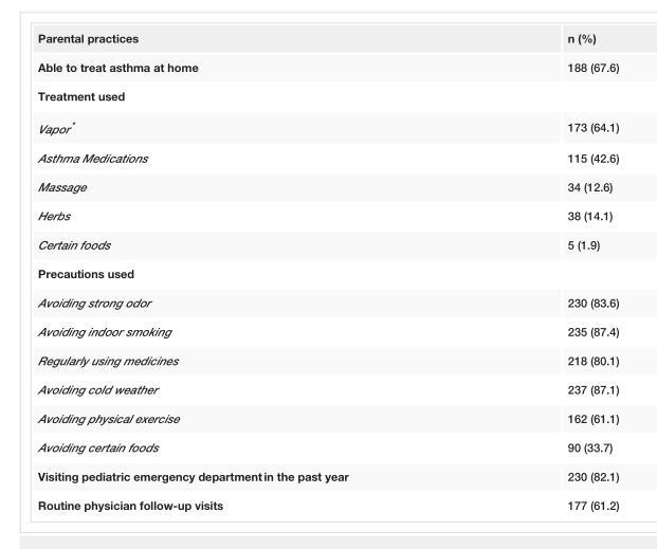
<table><tbody><tr><td>Parental practices</td><td>n (%)</td></tr><tr><td>Able to treat asthma at home</td><td>188 (67.6)</td></tr><tr><td colspan="2">Treatment used</td></tr><tr><td>Vapor*</td><td>173 (64.1)</td></tr><tr><td>Asthma Medications</td><td>115 (42.6)</td></tr><tr><td>Massage</td><td>34 (12.6)</td></tr><tr><td>Herbs</td><td>38 (14.1)</td></tr><tr><td>Certain foods</td><td>5 (1.9)</td></tr><tr><td colspan="2">Precautions used</td></tr><tr><td>Avoiding strong odor</td><td>230 (83.6)</td></tr><tr><td>Avoiding indoor smoking</td><td>235 (87.4)</td></tr><tr><td>Regularly using medicines</td><td>218 (80.1)</td></tr><tr><td>Avoiding cold weather</td><td>237 (87.1)</td></tr><tr><td>Avoiding physical exercise</td><td>162 (61.1)</td></tr><tr><td>Avoiding certain foods</td><td>90 (33.7)</td></tr><tr><td>Visiting pediatric emergency department in the past year</td><td>230 (82.1)</td></tr><tr><td>Routine physician follow-up visits</td><td>177 (61.2)</td></tr></tbody></table>